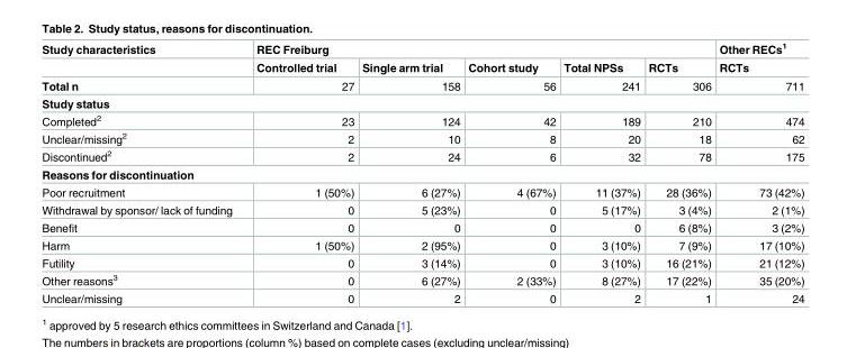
<table><thead><tr><td rowspan="2">Study characteristics</td><td colspan="5">REC Freiburg</td><td rowspan="2">Other RECs<sup>1</sup> RCTs</td></tr><tr><td>Controlled trial</td><td>Single arm trial</td><td>Cohort study</td><td>Total NPSs</td><td>RCTs</td></tr></thead><tbody><tr><td>Total n</td><td>27</td><td>158</td><td>56</td><td>241</td><td>306</td><td>711</td></tr><tr><td colspan="7">Study status</td></tr><tr><td>Completed<sup>2</sup></td><td>23</td><td>124</td><td>42</td><td>189</td><td>210</td><td>474</td></tr><tr><td>Unclear/missing<sup>2</sup></td><td>2</td><td>10</td><td>8</td><td>20</td><td>18</td><td>62</td></tr><tr><td>Discontinued<sup>2</sup></td><td>2</td><td>24</td><td>6</td><td>32</td><td>78</td><td>175</td></tr><tr><td colspan="7">Reasons for discontinuation</td></tr><tr><td>Poor recruitment</td><td>1 (50%)</td><td>6 (27%)</td><td>4 (67%)</td><td>11 (37%)</td><td>28 (36%)</td><td>73 (42%)</td></tr><tr><td>Withdrawal by sponsor/ lack of funding</td><td>0</td><td>5 (23%)</td><td>0</td><td>5 (17%)</td><td>3 (4%)</td><td>2 (1%)</td></tr><tr><td>Benefit</td><td>0</td><td>0</td><td>0</td><td>0</td><td>6 (8%)</td><td>3 (2%)</td></tr><tr><td>Harm</td><td>1 (50%)</td><td>2 (95%)</td><td>0</td><td>3 (10%)</td><td>7 (9%)</td><td>17 (10%)</td></tr><tr><td>Futility</td><td>0</td><td>3 (14%)</td><td>0</td><td>3 (10%)</td><td>16 (21%)</td><td>21 (12%)</td></tr><tr><td>Other reasons<sup>3</sup></td><td>0</td><td>6 (27%)</td><td>2 (33%)</td><td>8 (27%)</td><td>17 (22%)</td><td>35 (20%)</td></tr><tr><td>Unclear/missing</td><td>0</td><td>2</td><td>0</td><td>2</td><td>1</td><td>24</td></tr></tbody></table>